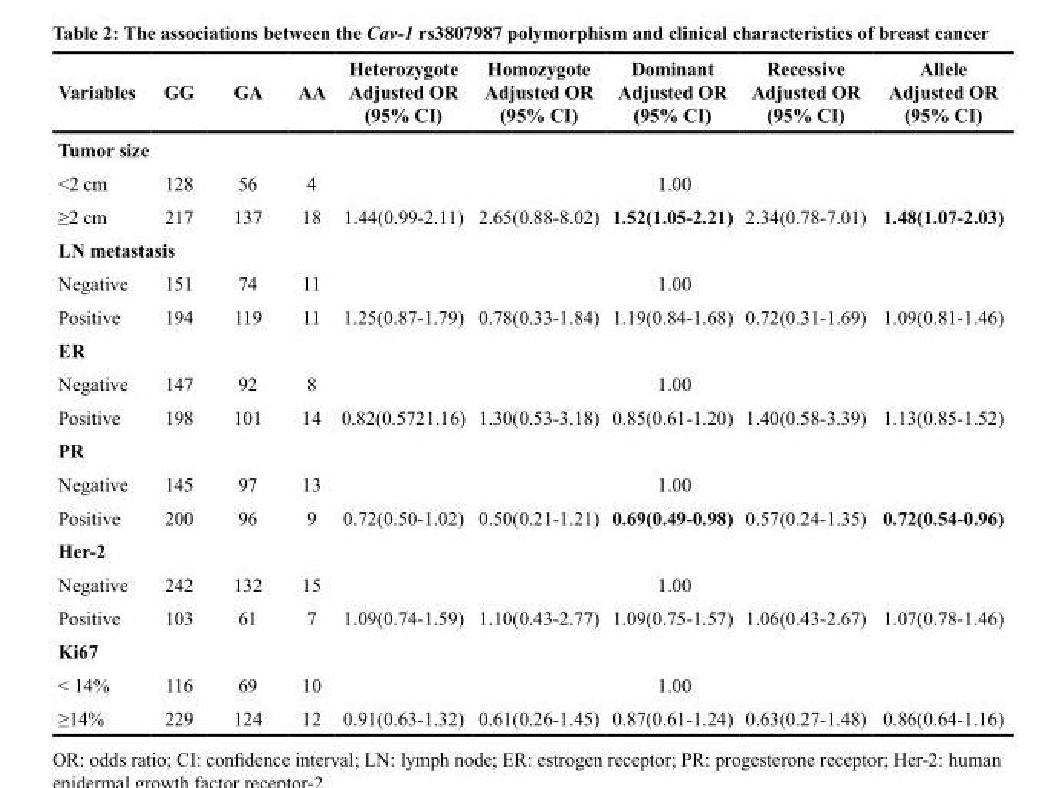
<table><thead><tr><td>Variables</td><td>GG</td><td>GA</td><td>AA</td><td>Heterozygote Adjusted OR (95% CI)</td><td>Homozygote Adjusted OR (95% CI)</td><td>Dominant Adjusted OR (95% CI)</td><td>Recessive Adjusted OR (95% CI)</td><td>Allele Adjusted OR (95% CI)</td></tr></thead><tbody><tr><td colspan="9">Tumor size</td></tr><tr><td>&lt;2 cm</td><td>128</td><td>56</td><td>4</td><td colspan="5">1.00</td></tr><tr><td>≥2 cm</td><td>217</td><td>137</td><td>18</td><td>1.44(0.99-2.11)</td><td>2.65(0.88-8.02)</td><td>1.52(1.05-2.21)</td><td>2.34(0.78-7.01)</td><td>1.48(1.07-2.03)</td></tr><tr><td colspan="9">LN metastasis</td></tr><tr><td>Negative</td><td>151</td><td>74</td><td>11</td><td colspan="5">1.00</td></tr><tr><td>Positive</td><td>194</td><td>119</td><td>11</td><td>1.25(0.87-1.79)</td><td>0.78(0.33-1.84)</td><td>1.19(0.84-1.68)</td><td>0.72(0.31-1.69)</td><td>1.09(0.81-1.46)</td></tr><tr><td colspan="9">ER</td></tr><tr><td>Negative</td><td>147</td><td>92</td><td>8</td><td colspan="5">1.00</td></tr><tr><td>Positive</td><td>198</td><td>101</td><td>14</td><td>0.82(0.5721.16)</td><td>1.30(0.53-3.18)</td><td>0.85(0.61-1.20)</td><td>1.40(0.58-3.39)</td><td>1.13(0.85-1.52)</td></tr><tr><td colspan="9">PR</td></tr><tr><td>Negative</td><td>145</td><td>97</td><td>13</td><td colspan="5">1.00</td></tr><tr><td>Positive</td><td>200</td><td>96</td><td>9</td><td>0.72(0.50-1.02)</td><td>0.50(0.21-1.21)</td><td>0.69(0.49-0.98)</td><td>0.57(0.24-1.35)</td><td>0.72(0.54-0.96)</td></tr><tr><td colspan="9">Her-2</td></tr><tr><td>Negative</td><td>242</td><td>132</td><td>15</td><td colspan="5">1.00</td></tr><tr><td>Positive</td><td>103</td><td>61</td><td>7</td><td>1.09(0.74-1.59)</td><td>1.10(0.43-2.77)</td><td>1.09(0.75-1.57)</td><td>1.06(0.43-2.67)</td><td>1.07(0.78-1.46)</td></tr><tr><td colspan="9">Ki67</td></tr><tr><td>&lt; 14%</td><td>116</td><td>69</td><td>10</td><td colspan="5">1.00</td></tr><tr><td>≥14%</td><td>229</td><td>124</td><td>12</td><td>0.91(0.63-1.32)</td><td>0.61(0.26-1.45)</td><td>0.87(0.61-1.24)</td><td>0.63(0.27-1.48)</td><td>0.86(0.64-1.16)</td></tr></tbody></table>